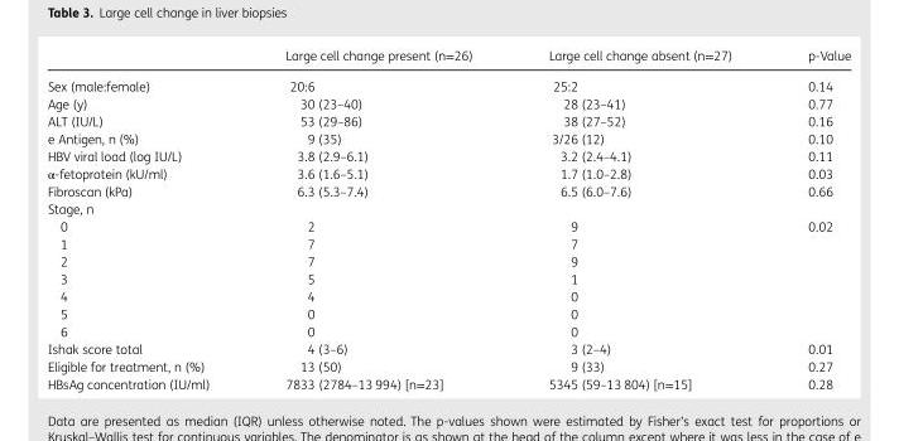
<table><thead><tr><td></td><td>Large cell change present (n=26)</td><td>Large cell change absent (n=27)</td><td>p-Value</td></tr></thead><tbody><tr><td>Sex (male:female)</td><td>20:6</td><td>25:2</td><td>0.14</td></tr><tr><td>Age (y)</td><td>30 (23–40)</td><td>28 (23–41)</td><td>0.77</td></tr><tr><td>ALT (IU/L)</td><td>53 (29–86)</td><td>38 (27–52)</td><td>0.16</td></tr><tr><td>e Antigen, n (%)</td><td>9 (35)</td><td>3/26 (12)</td><td>0.10</td></tr><tr><td>HBV viral load (log IU/L)</td><td>3.8 (2.9–6.1)</td><td>3.2 (2.4–4.1)</td><td>0.11</td></tr><tr><td>α-fetoprotein (kU/ml)</td><td>3.6 (1.6–5.1)</td><td>1.7 (1.0–2.8)</td><td>0.03</td></tr><tr><td>Fibroscan (kPa)</td><td>6.3 (5.3–7.4)</td><td>6.5 (6.0–7.6)</td><td>0.66</td></tr><tr><td colspan="4">Stage, n</td></tr><tr><td>0</td><td>2</td><td>9</td><td rowspan="7">0.02</td></tr><tr><td>1</td><td>7</td><td>7</td></tr><tr><td>2</td><td>7</td><td>9</td></tr><tr><td>3</td><td>5</td><td>1</td></tr><tr><td>4</td><td>4</td><td>0</td></tr><tr><td>5</td><td>0</td><td>0</td></tr><tr><td>6</td><td>0</td><td>0</td></tr><tr><td>Ishak score total</td><td>4 (3–6)</td><td>3 (2–4)</td><td>0.01</td></tr><tr><td>Eligible for treatment, n (%)</td><td>13 (50)</td><td>9 (33)</td><td>0.27</td></tr><tr><td>HBsAg concentration (IU/ml)</td><td>7833 (2784–13 994) [n=23]</td><td>5345 (59–13 804) [n=15]</td><td>0.28</td></tr></tbody></table>